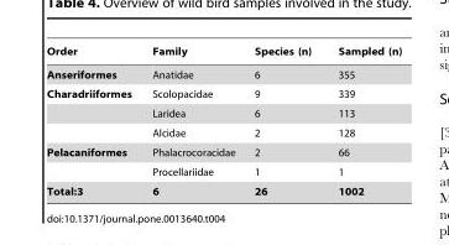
<table><thead><tr><td>Order</td><td>Family</td><td>Species (n)</td><td>Sampled (n)</td></tr></thead><tbody><tr><td>Anseriformes</td><td>Anatidae</td><td>6</td><td>355</td></tr><tr><td rowspan="3">Charadriiformes</td><td>Scolopacidae</td><td>9</td><td>339</td></tr><tr><td>Laridea</td><td>6</td><td>113</td></tr><tr><td>Alcidae</td><td>2</td><td>128</td></tr><tr><td rowspan="2">Pelacaniformes</td><td>Phalacrocoracidae</td><td>2</td><td>66</td></tr><tr><td>Procellariidae</td><td>1</td><td>1</td></tr><tr><td>Total:3</td><td>6</td><td>26</td><td>1002</td></tr></tbody></table>